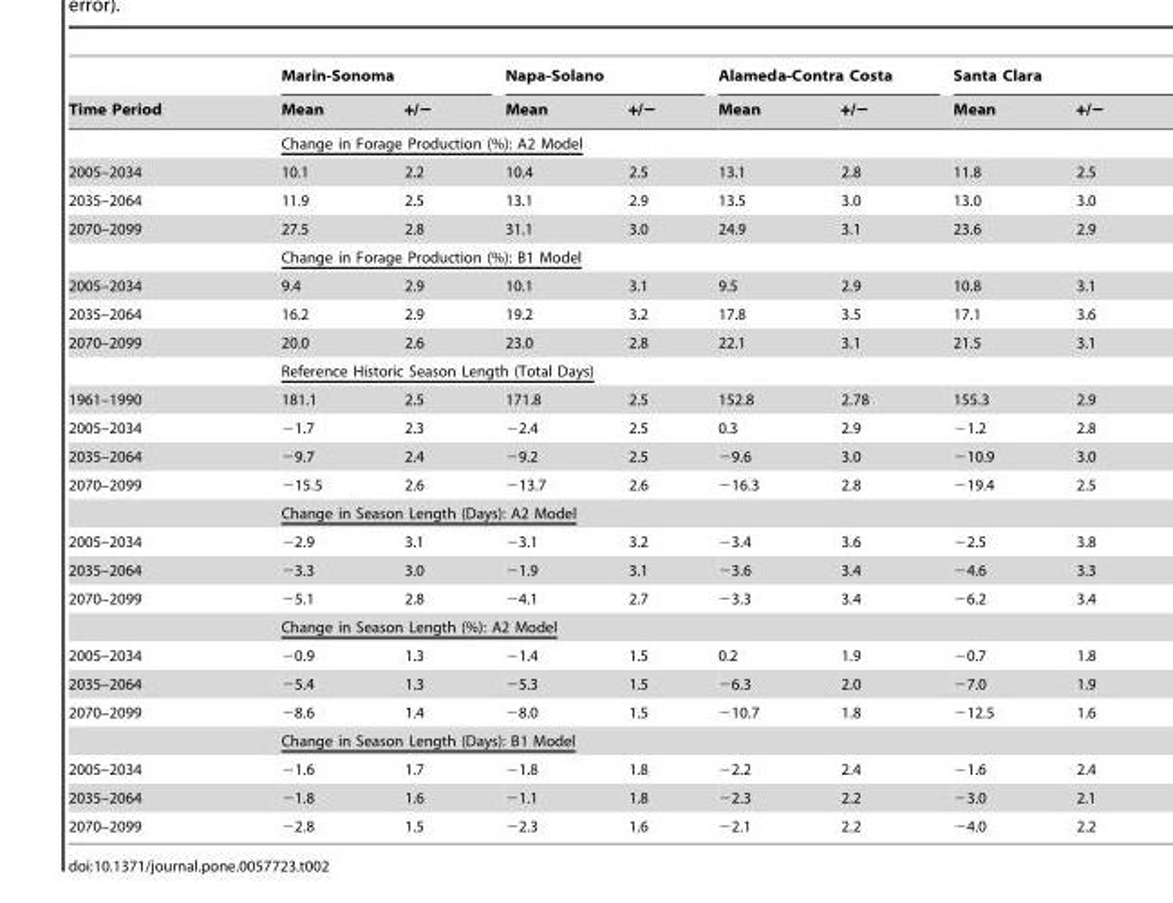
<table><thead><tr><td rowspan="2">Time Period</td><td colspan="2">Marin-Sonoma</td><td colspan="2">Napa-Solano</td><td colspan="2">Alameda-Contra Costa</td><td colspan="2">Santa Clara</td></tr><tr><td>Mean</td><td>+/−</td><td>Mean</td><td>+/−</td><td>Mean</td><td>+/−</td><td>Mean</td><td>+/−</td></tr></thead><tbody><tr><td></td><td colspan="8">Change in Forage Production (%): A2 Model</td></tr><tr><td>2005–2034</td><td>10.1</td><td>2.2</td><td>10.4</td><td>2.5</td><td>13.1</td><td>2.8</td><td>11.8</td><td>2.5</td></tr><tr><td>2035–2064</td><td>11.9</td><td>2.5</td><td>13.1</td><td>2.9</td><td>13.5</td><td>3.0</td><td>13.0</td><td>3.0</td></tr><tr><td rowspan="2">2070–2099</td><td>27.5</td><td>2.8</td><td>31.1</td><td>3.0</td><td>24.9</td><td>3.1</td><td>23.6</td><td>2.9</td></tr><tr><td colspan="8">Change in Forage Production (%): B1 Model</td></tr><tr><td>2005–2034</td><td>9.4</td><td>2.9</td><td>10.1</td><td>3.1</td><td>9.5</td><td>2.9</td><td>10.8</td><td>3.1</td></tr><tr><td>2035–2064</td><td>16.2</td><td>2.9</td><td>19.2</td><td>3.2</td><td>17.8</td><td>3.5</td><td>17.1</td><td>3.6</td></tr><tr><td rowspan="2">2070–2099</td><td>20.0</td><td>2.6</td><td>23.0</td><td>2.8</td><td>22.1</td><td>3.1</td><td>21.5</td><td>3.1</td></tr><tr><td colspan="8">Reference Historic Season Length (Total Days)</td></tr><tr><td>1961–1990</td><td>181.1</td><td>2.5</td><td>171.8</td><td>2.5</td><td>152.8</td><td>2.78</td><td>155.3</td><td>2.9</td></tr><tr><td>2005–2034</td><td>−1.7</td><td>2.3</td><td>−2.4</td><td>2.5</td><td>0.3</td><td>2.9</td><td>−1.2</td><td>2.8</td></tr><tr><td>2035–2064</td><td>−9.7</td><td>2.4</td><td>−9.2</td><td>2.5</td><td>−9.6</td><td>3.0</td><td>−10.9</td><td>3.0</td></tr><tr><td rowspan="2">2070–2099</td><td>−15.5</td><td>2.6</td><td>−13.7</td><td>2.6</td><td>−16.3</td><td>2.8</td><td>−19.4</td><td>2.5</td></tr><tr><td colspan="8">Change in Season Length (Days): A2 Model</td></tr><tr><td>2005–2034</td><td>−2.9</td><td>3.1</td><td>−3.1</td><td>3.2</td><td>−3.4</td><td>3.6</td><td>−2.5</td><td>3.8</td></tr><tr><td>2035–2064</td><td>−3.3</td><td>3.0</td><td>−1.9</td><td>3.1</td><td>−3.6</td><td>3.4</td><td>−4.6</td><td>3.3</td></tr><tr><td rowspan="2">2070–2099</td><td>−5.1</td><td>2.8</td><td>−4.1</td><td>2.7</td><td>−3.3</td><td>3.4</td><td>−6.2</td><td>3.4</td></tr><tr><td colspan="8">Change in Season Length (%): A2 Model</td></tr><tr><td>2005–2034</td><td>−0.9</td><td>1.3</td><td>−1.4</td><td>1.5</td><td>0.2</td><td>1.9</td><td>−0.7</td><td>1.8</td></tr><tr><td>2035–2064</td><td>−5.4</td><td>1.3</td><td>−5.3</td><td>1.5</td><td>−6.3</td><td>2.0</td><td>−7.0</td><td>1.9</td></tr><tr><td rowspan="2">2070–2099</td><td>−8.6</td><td>1.4</td><td>−8.0</td><td>1.5</td><td>−10.7</td><td>1.8</td><td>−12.5</td><td>1.6</td></tr><tr><td colspan="8">Change in Season Length (Days): B1 Model</td></tr><tr><td>2005–2034</td><td>−1.6</td><td>1.7</td><td>−1.8</td><td>1.8</td><td>−2.2</td><td>2.4</td><td>−1.6</td><td>2.4</td></tr><tr><td>2035–2064</td><td>−1.8</td><td>1.6</td><td>−1.1</td><td>1.8</td><td>−2.3</td><td>2.2</td><td>−3.0</td><td>2.1</td></tr><tr><td>2070–2099</td><td>−2.8</td><td>1.5</td><td>−2.3</td><td>1.6</td><td>−2.1</td><td>2.2</td><td>−4.0</td><td>2.2</td></tr></tbody></table>